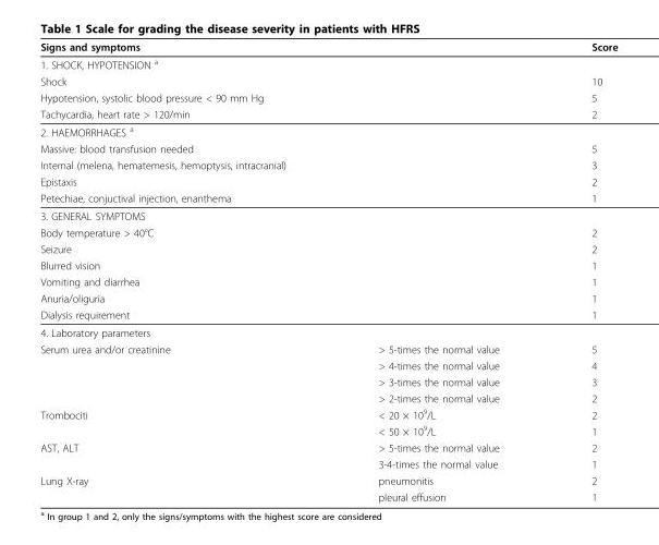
<table><thead><tr><td>Signs and symptoms</td><td></td><td>Score</td></tr></thead><tbody><tr><td colspan="3">1. SHOCK, HYPOTENSION <sup>a</sup></td></tr><tr><td>Shock</td><td></td><td>10</td></tr><tr><td>Hypotension, systolic blood pressure &lt; 90 mm Hg</td><td></td><td>5</td></tr><tr><td>Tachycardia, heart rate &gt; 120/min</td><td></td><td>2</td></tr><tr><td colspan="3">2. HAEMORRHAGES <sup>a</sup></td></tr><tr><td>Massive: blood transfusion needed</td><td></td><td>5</td></tr><tr><td>Internal (melena, hematemesis, hemoptysis, intracranial)</td><td></td><td>3</td></tr><tr><td>Epistaxis</td><td></td><td>2</td></tr><tr><td>Petechiae, conjuctival injection, enanthema</td><td></td><td>1</td></tr><tr><td colspan="3">3. GENERAL SYMPTOMS</td></tr><tr><td>Body temperature &gt; 40°C</td><td></td><td>2</td></tr><tr><td>Seizure</td><td></td><td>2</td></tr><tr><td>Blurred vision</td><td></td><td>1</td></tr><tr><td>Vomiting and diarrhea</td><td></td><td>1</td></tr><tr><td>Anuria/oliguria</td><td></td><td>1</td></tr><tr><td>Dialysis requirement</td><td></td><td>1</td></tr><tr><td colspan="3">4. Laboratory parameters</td></tr><tr><td rowspan="4">Serum urea and/or creatinine</td><td>&gt; 5-times the normal value</td><td>5</td></tr><tr><td>&gt; 4-times the normal value</td><td>4</td></tr><tr><td>&gt; 3-times the normal value</td><td>3</td></tr><tr><td>&gt; 2-times the normal value</td><td>2</td></tr><tr><td rowspan="2">Trombociti</td><td>&lt; 20 × 10<sup>9</sup>/L</td><td>2</td></tr><tr><td>&lt; 50 × 10<sup>9</sup>/L</td><td>1</td></tr><tr><td rowspan="2">AST, ALT</td><td>&gt; 5-times the normal value</td><td>2</td></tr><tr><td>3-4-times the normal value</td><td>1</td></tr><tr><td rowspan="2">Lung X-ray</td><td>pneumonitis</td><td>2</td></tr><tr><td>pleural effusion</td><td>1</td></tr></tbody></table>